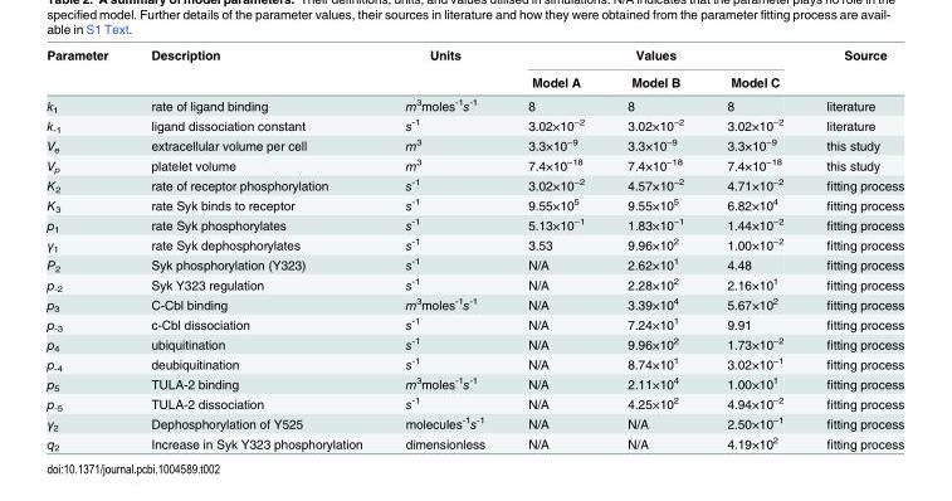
<table><thead><tr><td rowspan="2">Parameter</td><td rowspan="2">Description</td><td rowspan="2">Units</td><td colspan="3">Values</td><td rowspan="2">Source</td></tr><tr><td>Model A</td><td>Model B</td><td>Model C</td></tr></thead><tbody><tr><td>k<sub>1</sub></td><td>rate of ligand binding</td><td>m<sup>3</sup>moles<sup>-1</sup>s<sup>-1</sup></td><td>8</td><td>8</td><td>8</td><td>literature</td></tr><tr><td>k<sub>-1</sub></td><td>ligand dissociation constant</td><td>s<sup>-1</sup></td><td>3.02×10<sup>−2</sup></td><td>3.02×10<sup>−2</sup></td><td>3.02×10<sup>−2</sup></td><td>literature</td></tr><tr><td>V<sub>e</sub></td><td>extracellular volume per cell</td><td>m<sup>3</sup></td><td>3.3×10<sup>−9</sup></td><td>3.3×10<sup>−9</sup></td><td>3.3×10<sup>−9</sup></td><td>this study</td></tr><tr><td>V<sub>p</sub></td><td>platelet volume</td><td>m<sup>3</sup></td><td>7.4×10<sup>−18</sup></td><td>7.4×10<sup>−18</sup></td><td>7.4×10<sup>−18</sup></td><td>this study</td></tr><tr><td>K<sub>2</sub></td><td>rate of receptor phosphorylation</td><td>s<sup>-1</sup></td><td>3.02×10<sup>−2</sup></td><td>4.57×10<sup>−2</sup></td><td>4.71×10<sup>−2</sup></td><td>fitting process</td></tr><tr><td>K<sub>3</sub></td><td>rate Syk binds to receptor</td><td>s<sup>-1</sup></td><td>9.55×10<sup>5</sup></td><td>9.55×10<sup>5</sup></td><td>6.82×10<sup>4</sup></td><td>fitting process</td></tr><tr><td>p<sub>1</sub></td><td>rate Syk phosphorylates</td><td>s<sup>-1</sup></td><td>5.13×10<sup>−1</sup></td><td>1.83×10<sup>−1</sup></td><td>1.44×10<sup>−2</sup></td><td>fitting process</td></tr><tr><td>γ<sub>1</sub></td><td>rate Syk dephosphorylates</td><td>s<sup>-1</sup></td><td>3.53</td><td>9.96×10<sup>2</sup></td><td>1.00×10<sup>−2</sup></td><td>fitting process</td></tr><tr><td>P<sub>2</sub></td><td>Syk phosphorylation (Y323)</td><td>s<sup>-1</sup></td><td>N/A</td><td>2.62×10<sup>1</sup></td><td>4.48</td><td>fitting process</td></tr><tr><td>p<sub>-2</sub></td><td>Syk Y323 regulation</td><td>s<sup>-1</sup></td><td>N/A</td><td>2.28×10<sup>2</sup></td><td>2.16×10<sup>1</sup></td><td>fitting process</td></tr><tr><td>p<sub>3</sub></td><td>C-Cbl binding</td><td>m<sup>3</sup>moles<sup>-1</sup>s<sup>-1</sup></td><td>N/A</td><td>3.39×10<sup>4</sup></td><td>5.67×10<sup>2</sup></td><td>fitting process</td></tr><tr><td>p<sub>-3</sub></td><td>c-Cbl dissociation</td><td>s<sup>-1</sup></td><td>N/A</td><td>7.24×10<sup>1</sup></td><td>9.91</td><td>fitting process</td></tr><tr><td>p<sub>4</sub></td><td>ubiquitination</td><td>s<sup>-1</sup></td><td>N/A</td><td>9.96×10<sup>2</sup></td><td>1.73×10<sup>−2</sup></td><td>fitting process</td></tr><tr><td>p<sub>-4</sub></td><td>deubiquitination</td><td>s<sup>-1</sup></td><td>N/A</td><td>8.74×10<sup>1</sup></td><td>3.02×10<sup>−1</sup></td><td>fitting process</td></tr><tr><td>p<sub>5</sub></td><td>TULA-2 binding</td><td>m<sup>3</sup>moles<sup>-1</sup>s<sup>-1</sup></td><td>N/A</td><td>2.11×10<sup>4</sup></td><td>1.00×10<sup>1</sup></td><td>fitting process</td></tr><tr><td>p<sub>-5</sub></td><td>TULA-2 dissociation</td><td>s<sup>-1</sup></td><td>N/A</td><td>4.25×10<sup>2</sup></td><td>4.94×10<sup>−2</sup></td><td>fitting process</td></tr><tr><td>γ<sub>2</sub></td><td>Dephosphorylation of Y525</td><td>molecules<sup>-1</sup>s<sup>-1</sup></td><td>N/A</td><td>N/A</td><td>2.50×10<sup>−1</sup></td><td>fitting process</td></tr><tr><td>q<sub>2</sub></td><td>Increase in Syk Y323 phosphorylation</td><td>dimensionless</td><td>N/A</td><td>N/A</td><td>4.19×10<sup>2</sup></td><td>fitting process</td></tr></tbody></table>